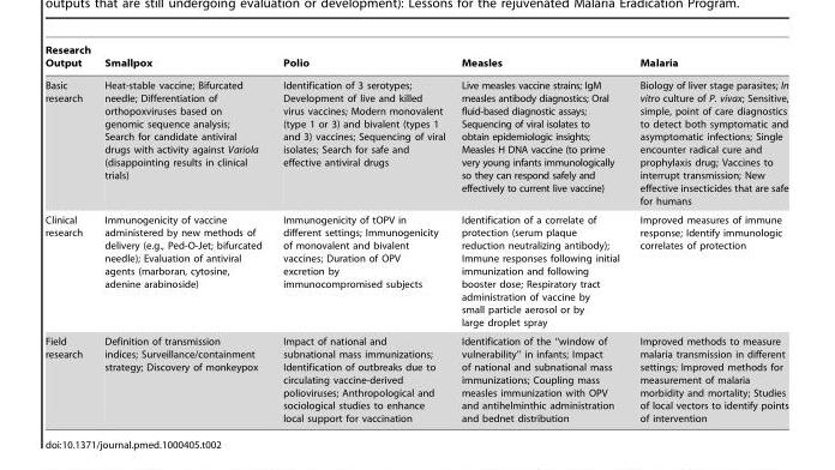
<table><thead><tr><td>Research Output</td><td>Smallpox</td><td>Polio</td><td>Measles</td><td>Malaria</td></tr></thead><tbody><tr><td>Basic research</td><td>Heat-stable vaccine; Bifurcated needle; Differentiation of orthopoxviruses based on genomic sequence analysis; Search for candidate antiviral drugs with activity against Variola (disappointing results in clinical trials)</td><td>Identification of 3 serotypes; Development of live and killed virus vaccines; Modern monovalent (type 1 or 3) and bivalent (types 1 and 3) vaccines; Sequencing of viral isolates; Search for safe and effective antiviral drugs</td><td>Live measles vaccine strains; IgM measles antibody diagnostics; Oral fluid-based diagnostic assays; Sequencing of viral isolates to obtain epidemiologic insights; Measles H DNA vaccine (to prime very young infants immunologically so they can respond safely and effectively to current live vaccine)</td><td>Biology of liver stage parasites; In vitro culture of P. vivax; Sensitive, simple, point of care diagnostics to detect both symptomatic and asymptomatic infections; Single encounter radical cure and prophylaxis drug; Vaccines to interrupt transmission; New effective insecticides that are safe for humans</td></tr><tr><td>Clinical research</td><td>Immunogenicity of vaccine administered by new methods of delivery (e.g., Ped-O-Jet; bifurcated needle); Evaluation of antiviral agents (marboran, cytosine, adenine arabinoside)</td><td>Immunogenicity of tOPV in different settings; Immunogenicity of monovalent and bivalent vaccines; Duration of OPV excretion by immunocompromised subjects</td><td>Identification of a correlate of protection (serum plaque reduction neutralizing antibody); Immune responses following initial immunization and following booster dose; Respiratory tract administration of vaccine by small particle aerosol or by large droplet spray</td><td>Improved measures of immune response; Identify immunologic correlates of protection</td></tr><tr><td>Field research</td><td>Definition of transmission indices; Surveillance/containment strategy; Discovery of monkeypox</td><td>Impact of national and subnational mass immunizations; Identification of outbreaks due to circulating vaccine-derived polioviruses; Anthropological and sociological studies to enhance local support for vaccination</td><td>Identification of the ‘‘window of vulnerability’’ in infants; Impact of national and subnational mass immunizations; Coupling mass measles immunization with OPV and antihelminthic administration and bednet distribution</td><td>Improved methods to measure malaria transmission in different settings; Improved methods for measurement of malaria morbidity and mortality; Studies of local vectors to identify points of intervention</td></tr></tbody></table>